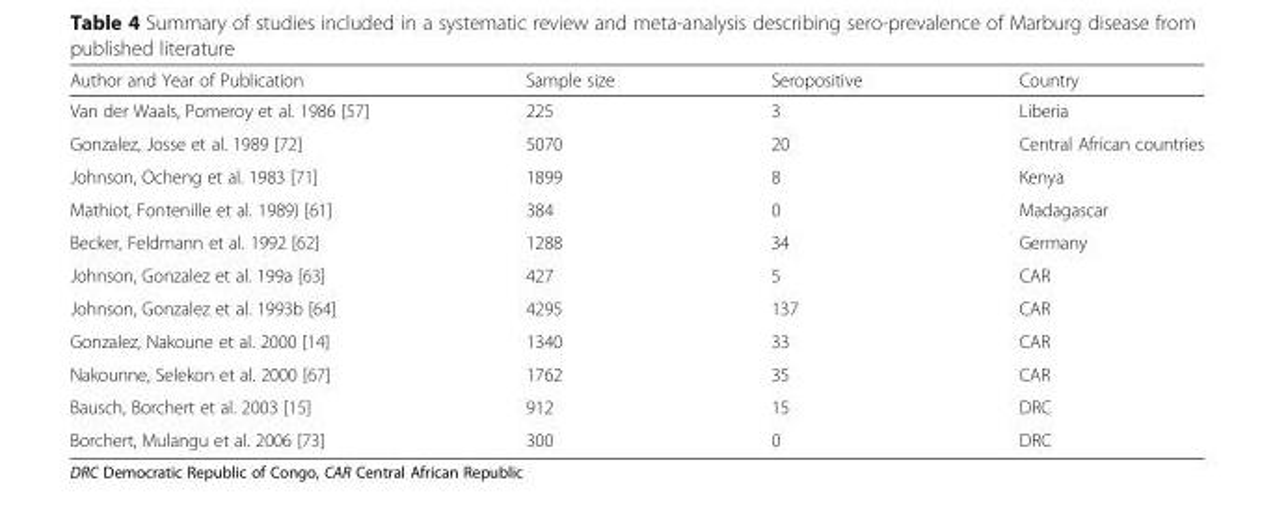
<table><thead><tr><td>Author and Year of Publication</td><td>Sample size</td><td>Seropositive</td><td>Country</td></tr></thead><tbody><tr><td>Van der Waals, Pomeroy et al. 1986 [57]</td><td>225</td><td>3</td><td>Liberia</td></tr><tr><td>Gonzalez, Josse et al. 1989 [72]</td><td>5070</td><td>20</td><td>Central African countries</td></tr><tr><td>Johnson, Ocheng et al. 1983 [71]</td><td>1899</td><td>8</td><td>Kenya</td></tr><tr><td>Mathiot, Fontenille et al. 1989) [61]</td><td>384</td><td>0</td><td>Madagascar</td></tr><tr><td>Becker, Feldmann et al. 1992 [62]</td><td>1288</td><td>34</td><td>Germany</td></tr><tr><td>Johnson, Gonzalez et al. 199a [63]</td><td>427</td><td>5</td><td>CAR</td></tr><tr><td>Johnson, Gonzalez et al. 1993b [64]</td><td>4295</td><td>137</td><td>CAR</td></tr><tr><td>Gonzalez, Nakoune et al. 2000 [14]</td><td>1340</td><td>33</td><td>CAR</td></tr><tr><td>Nakounne, Selekon et al. 2000 [67]</td><td>1762</td><td>35</td><td>CAR</td></tr><tr><td>Bausch, Borchert et al. 2003 [15]</td><td>912</td><td>15</td><td>DRC</td></tr><tr><td>Borchert, Mulangu et al. 2006 [73]</td><td>300</td><td>0</td><td>DRC</td></tr></tbody></table>